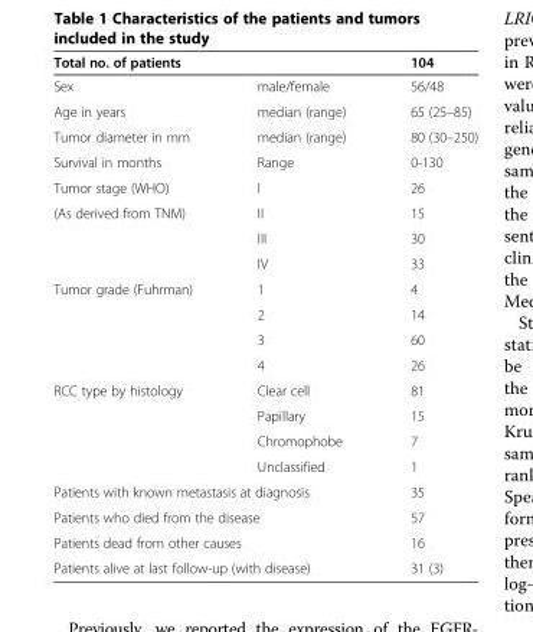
<table><thead><tr><td colspan="2">Total no. of patients</td><td rowspan="2">104 56/48</td></tr><tr><td>Sex</td><td>male/female</td></tr></thead><tbody><tr><td>Age in years</td><td>median (range)</td><td>65 (25–85)</td></tr><tr><td>Tumor diameter in mm</td><td>median (range)</td><td>80 (30–250)</td></tr><tr><td>Survival in months</td><td>Range</td><td>0-130</td></tr><tr><td>Tumor stage (WHO)</td><td>I</td><td>26</td></tr><tr><td rowspan="3">(As derived from TNM)</td><td>II</td><td>15</td></tr><tr><td>III</td><td>30</td></tr><tr><td>IV</td><td>33</td></tr><tr><td rowspan="4">Tumor grade (Fuhrman)</td><td>1</td><td>4</td></tr><tr><td>2</td><td>14</td></tr><tr><td>3</td><td>60</td></tr><tr><td>4</td><td>26</td></tr><tr><td rowspan="4">RCC type by histology</td><td>Clear cell</td><td>81</td></tr><tr><td>Papillary</td><td>15</td></tr><tr><td>Chromophobe</td><td>7</td></tr><tr><td>Unclassified</td><td>1</td></tr><tr><td colspan="2">Patients with known metastasis at diagnosis</td><td>35</td></tr><tr><td colspan="2">Patients who died from the disease</td><td>57</td></tr><tr><td colspan="2">Patients dead from other causes</td><td>16</td></tr><tr><td colspan="2">Patients alive at last follow-up (with disease)</td><td>31 (3)</td></tr></tbody></table>